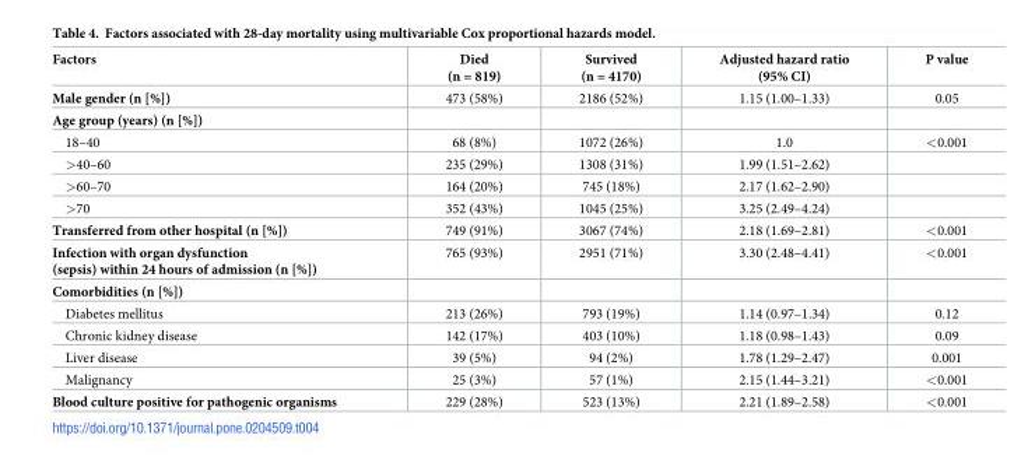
<table><thead><tr><td>Factors</td><td>Died (n = 819)</td><td>Survived (n = 4170)</td><td>Adjusted hazard ratio (95% CI)</td><td>P value</td></tr></thead><tbody><tr><td>Male gender (n [%])</td><td>473 (58%)</td><td>2186 (52%)</td><td>1.15 (1.00–1.33)</td><td>0.05</td></tr><tr><td colspan="5">Age group (years) (n [%])</td></tr><tr><td>18–40</td><td>68 (8%)</td><td>1072 (26%)</td><td>1.0</td><td>&lt;0.001</td></tr><tr><td>&gt;40–60</td><td>235 (29%)</td><td>1308 (31%)</td><td>1.99 (1.51–2.62)</td><td></td></tr><tr><td>&gt;60–70</td><td>164 (20%)</td><td>745 (18%)</td><td>2.17 (1.62–2.90)</td><td></td></tr><tr><td>&gt;70</td><td>352 (43%)</td><td>1045 (25%)</td><td>3.25 (2.49–4.24)</td><td></td></tr><tr><td>Transferred from other hospital (n [%])</td><td>749 (91%)</td><td>3067 (74%)</td><td>2.18 (1.69–2.81)</td><td>&lt;0.001</td></tr><tr><td>Infection with organ dysfunction (sepsis) within 24 hours of admission (n [%])</td><td>765 (93%)</td><td>2951 (71%)</td><td>3.30 (2.48–4.41)</td><td>&lt;0.001</td></tr><tr><td colspan="5">Comorbidities (n [%])</td></tr><tr><td>Diabetes mellitus</td><td>213 (26%)</td><td>793 (19%)</td><td>1.14 (0.97–1.34)</td><td>0.12</td></tr><tr><td>Chronic kidney disease</td><td>142 (17%)</td><td>403 (10%)</td><td>1.18 (0.98–1.43)</td><td>0.09</td></tr><tr><td>Liver disease</td><td>39 (5%)</td><td>94 (2%)</td><td>1.78 (1.29–2.47)</td><td>0.001</td></tr><tr><td>Malignancy</td><td>25 (3%)</td><td>57 (1%)</td><td>2.15 (1.44–3.21)</td><td>&lt;0.001</td></tr><tr><td>Blood culture positive for pathogenic organisms</td><td>229 (28%)</td><td>523 (13%)</td><td>2.21 (1.89–2.58)</td><td>&lt;0.001</td></tr></tbody></table>